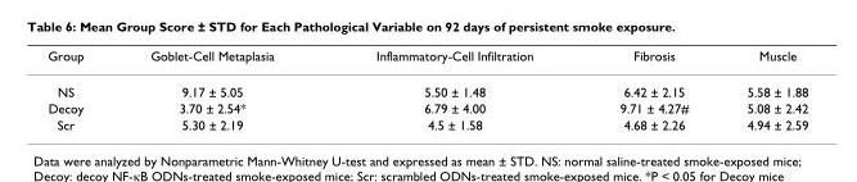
<table><thead><tr><td>Group</td><td>Goblet-Cell Metaplasia</td><td>Inflammatory-Cell Infiltration</td><td>Fibrosis</td><td>Muscle</td></tr></thead><tbody><tr><td>NS</td><td>9.17 ± 5.05</td><td>5.50 ± 1.48</td><td>6.42 ± 2.15</td><td>5.58 ± 1.88</td></tr><tr><td>Decoy</td><td>3.70 ± 2.54*</td><td>6.79 ± 4.00</td><td>9.71 ± 4.27#</td><td>5.08 ± 2.42</td></tr><tr><td>Scr</td><td>5.30 ± 2.19</td><td>4.5 ± 1.58</td><td>4.68 ± 2.26</td><td>4.94 ± 2.59</td></tr></tbody></table>